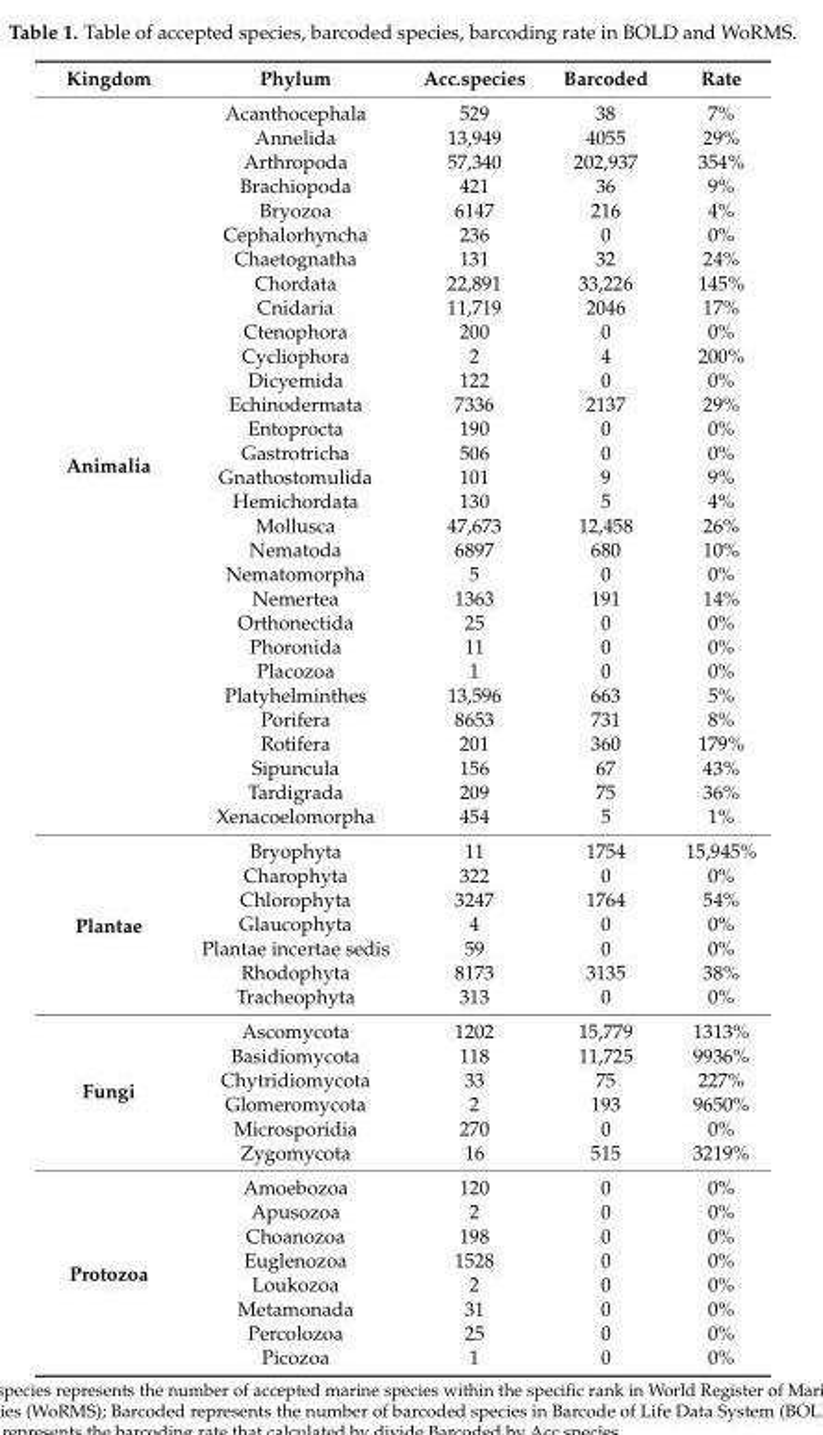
<table><thead><tr><td>Kingdom</td><td>Phylum</td><td>Acc.species</td><td>Barcoded</td><td>Rate</td></tr></thead><tbody><tr><td rowspan="30">Animalia</td><td>Acanthocephala</td><td>529</td><td>38</td><td>7%</td></tr><tr><td>Annelida</td><td>13,949</td><td>4055</td><td>29%</td></tr><tr><td>Arthropoda</td><td>57,340</td><td>202,937</td><td>354%</td></tr><tr><td>Brachiopoda</td><td>421</td><td>36</td><td>9%</td></tr><tr><td>Bryozoa</td><td>6147</td><td>216</td><td>4%</td></tr><tr><td>Cephalorhyncha</td><td>236</td><td>0</td><td>0%</td></tr><tr><td>Chaetognatha</td><td>131</td><td>32</td><td>24%</td></tr><tr><td>Chordata</td><td>22,891</td><td>33,226</td><td>145%</td></tr><tr><td>Cnidaria</td><td>11,719</td><td>2046</td><td>17%</td></tr><tr><td>Ctenophora</td><td>200</td><td>0</td><td>0%</td></tr><tr><td>Cycliophora</td><td>2</td><td>4</td><td>200%</td></tr><tr><td>Dicyemida</td><td>122</td><td>0</td><td>0%</td></tr><tr><td>Echinodermata</td><td>7336</td><td>2137</td><td>29%</td></tr><tr><td>Entoprocta</td><td>190</td><td>0</td><td>0%</td></tr><tr><td>Gastrotricha</td><td>506</td><td>0</td><td>0%</td></tr><tr><td>Gnathostomulida</td><td>101</td><td>9</td><td>9%</td></tr><tr><td>Hemichordata</td><td>130</td><td>5</td><td>4%</td></tr><tr><td>Mollusca</td><td>47,673</td><td>12,458</td><td>26%</td></tr><tr><td>Nematoda</td><td>6897</td><td>680</td><td>10%</td></tr><tr><td>Nematomorpha</td><td>5</td><td>0</td><td>0%</td></tr><tr><td>Nemertea</td><td>1363</td><td>191</td><td>14%</td></tr><tr><td>Orthonectida</td><td>25</td><td>0</td><td>0%</td></tr><tr><td>Phoronida</td><td>11</td><td>0</td><td>0%</td></tr><tr><td>Placozoa</td><td>1</td><td>0</td><td>0%</td></tr><tr><td>Platyhelminthes</td><td>13,596</td><td>663</td><td>5%</td></tr><tr><td>Porifera</td><td>8653</td><td>731</td><td>8%</td></tr><tr><td>Rotifera</td><td>201</td><td>360</td><td>179%</td></tr><tr><td>Sipuncula</td><td>156</td><td>67</td><td>43%</td></tr><tr><td>Tardigrada</td><td>209</td><td>75</td><td>36%</td></tr><tr><td>Xenacoelomorpha</td><td>454</td><td>5</td><td>1%</td></tr><tr><td rowspan="7">Plantae</td><td>Bryophyta</td><td>11</td><td>1754</td><td>15,945%</td></tr><tr><td>Charophyta</td><td>322</td><td>0</td><td>0%</td></tr><tr><td>Chlorophyta</td><td>3247</td><td>1764</td><td>54%</td></tr><tr><td>Glaucophyta</td><td>4</td><td>0</td><td>0%</td></tr><tr><td>Plantae incertae sedis</td><td>59</td><td>0</td><td>0%</td></tr><tr><td>Rhodophyta</td><td>8173</td><td>3135</td><td>38%</td></tr><tr><td>Tracheophyta</td><td>313</td><td>0</td><td>0%</td></tr><tr><td rowspan="6">Fungi</td><td>Ascomycota</td><td>1202</td><td>15,779</td><td>1313%</td></tr><tr><td>Basidiomycota</td><td>118</td><td>11,725</td><td>9936%</td></tr><tr><td>Chytridiomycota</td><td>33</td><td>75</td><td>227%</td></tr><tr><td>Glomeromycota</td><td>2</td><td>193</td><td>9650%</td></tr><tr><td>Microsporidia</td><td>270</td><td>0</td><td>0%</td></tr><tr><td>Zygomycota</td><td>16</td><td>515</td><td>3219%</td></tr><tr><td rowspan="8">Protozoa</td><td>Amoebozoa</td><td>120</td><td>0</td><td>0%</td></tr><tr><td>Apusozoa</td><td>2</td><td>0</td><td>0%</td></tr><tr><td>Choanozoa</td><td>198</td><td>0</td><td>0%</td></tr><tr><td>Euglenozoa</td><td>1528</td><td>0</td><td>0%</td></tr><tr><td>Loukozoa</td><td>2</td><td>0</td><td>0%</td></tr><tr><td>Metamonada</td><td>31</td><td>0</td><td>0%</td></tr><tr><td>Percolozoa</td><td>25</td><td>0</td><td>0%</td></tr><tr><td>Picozoa</td><td>1</td><td>0</td><td>0%</td></tr></tbody></table>